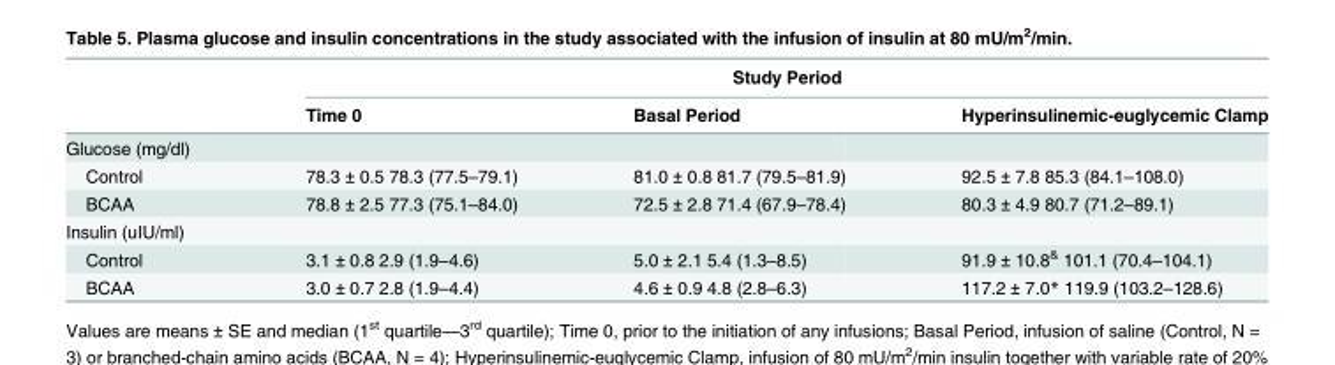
<table><thead><tr><td rowspan="2"></td><td colspan="3">Study Period</td></tr><tr><td>Time 0</td><td>Basal Period</td><td>Hyperinsulinemic-euglycemic Clamp</td></tr></thead><tbody><tr><td colspan="4">Glucose (mg/dl)</td></tr><tr><td>Control</td><td>78.3 ± 0.5 78.3 (77.5–79.1)</td><td>81.0 ± 0.8 81.7 (79.5–81.9)</td><td>92.5 ± 7.8 85.3 (84.1–108.0)</td></tr><tr><td>BCAA</td><td>78.8 ± 2.5 77.3 (75.1–84.0)</td><td>72.5 ± 2.8 71.4 (67.9–78.4)</td><td>80.3 ± 4.9 80.7 (71.2–89.1)</td></tr><tr><td colspan="4">Insulin (uIU/ml)</td></tr><tr><td>Control</td><td>3.1 ± 0.8 2.9 (1.9–4.6)</td><td>5.0 ± 2.1 5.4 (1.3–8.5)</td><td>91.9 ± 10.8<sup>&amp;</sup> 101.1 (70.4–104.1)</td></tr><tr><td>BCAA</td><td>3.0 ± 0.7 2.8 (1.9–4.4)</td><td>4.6 ± 0.9 4.8 (2.8–6.3)</td><td>117.2 ± 7.0* 119.9 (103.2–128.6)</td></tr></tbody></table>